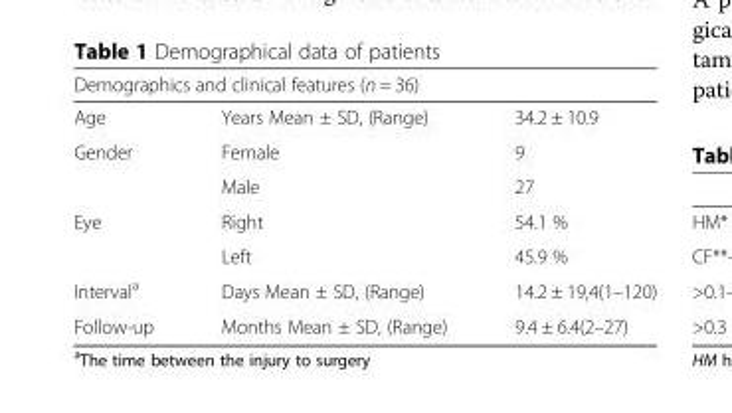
<table><thead><tr><td colspan="3">Demographics and clinical features (n = 36)</td></tr><tr><td>Age</td><td>Years Mean ± SD, (Range)</td><td>34.2 ± 10.9</td></tr></thead><tbody><tr><td rowspan="2">Gender</td><td>Female</td><td>9</td></tr><tr><td>Male</td><td>27</td></tr><tr><td rowspan="2">Eye</td><td>Right</td><td>54.1 %</td></tr><tr><td>Left</td><td>45.9 %</td></tr><tr><td>Interval<sup>a</sup></td><td>Days Mean ± SD, (Range)</td><td>14.2 ± 19,4(1–120)</td></tr><tr><td>Follow-up</td><td>Months Mean ± SD, (Range)</td><td>9.4 ± 6.4(2–27)</td></tr></tbody></table>